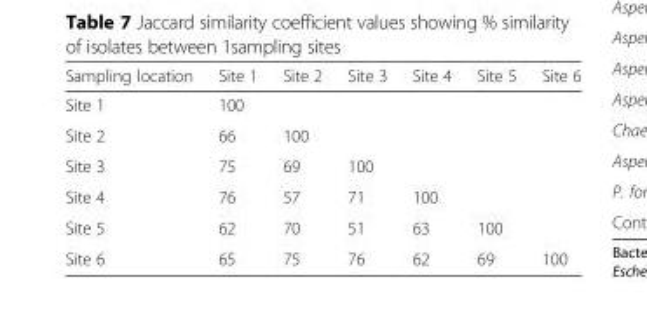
<table><thead><tr><td>Sampling location</td><td>Site 1</td><td>Site 2</td><td>Site 3</td><td>Site 4</td><td>Site 5</td><td>Site 6</td></tr></thead><tbody><tr><td>Site 1</td><td>100</td><td></td><td></td><td></td><td></td><td></td></tr><tr><td>Site 2</td><td>66</td><td>100</td><td></td><td></td><td></td><td></td></tr><tr><td>Site 3</td><td>75</td><td>69</td><td>100</td><td></td><td></td><td></td></tr><tr><td>Site 4</td><td>76</td><td>57</td><td>71</td><td>100</td><td></td><td></td></tr><tr><td>Site 5</td><td>62</td><td>70</td><td>51</td><td>63</td><td>100</td><td></td></tr><tr><td>Site 6</td><td>65</td><td>75</td><td>76</td><td>62</td><td>69</td><td>100</td></tr></tbody></table>